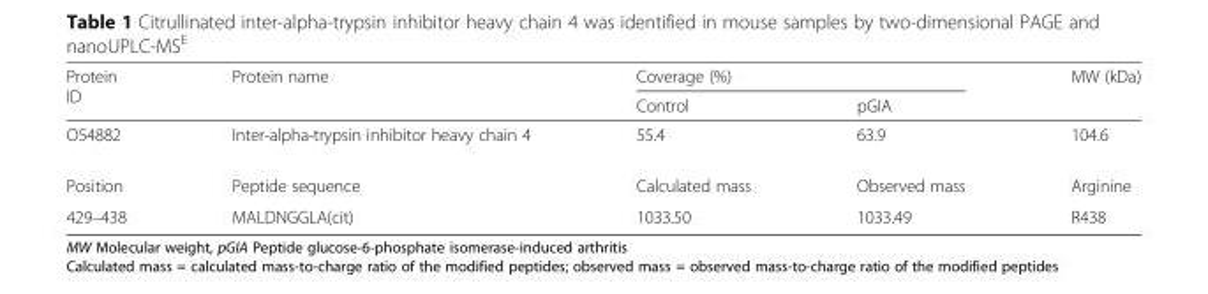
<table><thead><tr><td rowspan="2">Protein ID</td><td rowspan="2">Protein name</td><td colspan="2">Coverage (%)</td><td rowspan="2">MW (kDa)</td></tr><tr><td>Control</td><td>pGIA</td></tr></thead><tbody><tr><td>O54882</td><td>Inter-alpha-trypsin inhibitor heavy chain 4</td><td>55.4</td><td>63.9</td><td>104.6</td></tr><tr><td>Position</td><td>Peptide sequence</td><td>Calculated mass</td><td>Observed mass</td><td>Arginine</td></tr><tr><td>429–438</td><td>MALDNGGLA(cit)</td><td>1033.50</td><td>1033.49</td><td>R438</td></tr></tbody></table>